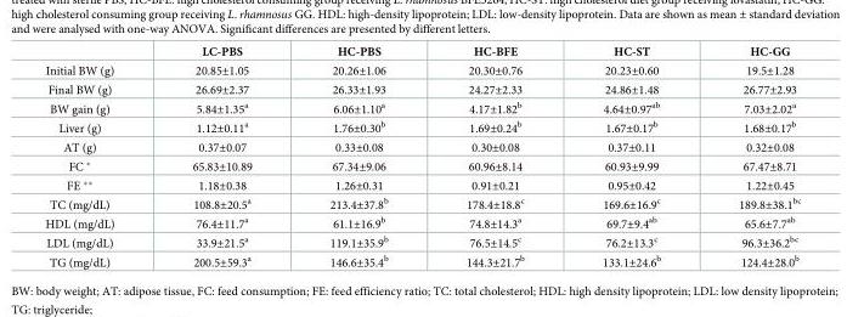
<table><thead><tr><td></td><td>LC-PBS</td><td>HC-PBS</td><td>HC-BFE</td><td>HC-ST</td><td>HC-GG</td></tr></thead><tbody><tr><td>Initial BW (g)</td><td>20.85±1.05</td><td>20.26±1.06</td><td>20.30±0.76</td><td>20.23±0.60</td><td>19.5±1.28</td></tr><tr><td>Final BW (g)</td><td>26.69±2.37</td><td>26.33±1.93</td><td>24.27±2.33</td><td>24.86±1.48</td><td>26.77±2.93</td></tr><tr><td>BW gain (g)</td><td>5.84±1.35<sup>a</sup></td><td>6.06±1.10<sup>a</sup></td><td>4.17±1.82<sup>b</sup></td><td>4.64±0.97<sup>ab</sup></td><td>7.03±2.02<sup>a</sup></td></tr><tr><td>Liver (g)</td><td>1.12±0.11<sup>a</sup></td><td>1.76±0.30<sup>b</sup></td><td>1.69±0.24<sup>b</sup></td><td>1.67±0.17<sup>b</sup></td><td>1.68±0.17<sup>b</sup></td></tr><tr><td>AT (g)</td><td>0.37±0.07</td><td>0.33±0.08</td><td>0.30±0.08</td><td>0.37±0.11</td><td>0.32±0.08</td></tr><tr><td>FC *</td><td>65.83±10.89</td><td>67.34±9.06</td><td>60.96±8.14</td><td>60.93±9.99</td><td>67.47±8.71</td></tr><tr><td>FE **</td><td>1.18±0.38</td><td>1.26±0.31</td><td>0.91±0.21</td><td>0.95±0.42</td><td>1.22±0.45</td></tr><tr><td>TC (mg/dL)</td><td>108.8±20.5<sup>a</sup></td><td>213.4±37.8<sup>b</sup></td><td>178.4±18.8<sup>c</sup></td><td>169.6±16.9<sup>c</sup></td><td>189.8±38.1<sup>bc</sup></td></tr><tr><td>HDL (mg/dL)</td><td>76.4±11.7<sup>a</sup></td><td>61.1±16.9<sup>b</sup></td><td>74.8±14.3<sup>a</sup></td><td>69.7±9.4<sup>ab</sup></td><td>65.6±7.7<sup>ab</sup></td></tr><tr><td>LDL (mg/dL)</td><td>33.9±21.5<sup>a</sup></td><td>119.1±35.9<sup>b</sup></td><td>76.5±14.5<sup>c</sup></td><td>76.2±13.3<sup>c</sup></td><td>96.3±36.2<sup>bc</sup></td></tr><tr><td>TG (mg/dL)</td><td>200.5±59.3<sup>a</sup></td><td>146.6±35.4<sup>b</sup></td><td>144.3±21.7<sup>b</sup></td><td>133.1±24.6<sup>b</sup></td><td>124.4±28.0<sup>b</sup></td></tr></tbody></table>